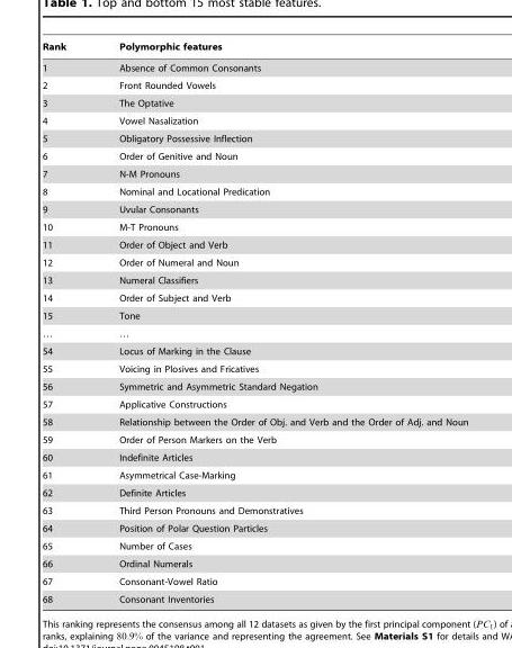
<table><thead><tr><td>Rank</td><td>Polymorphic features</td></tr></thead><tbody><tr><td>1</td><td>Absence of Common Consonants</td></tr><tr><td>2</td><td>Front Rounded Vowels</td></tr><tr><td>3</td><td>The Optative</td></tr><tr><td>4</td><td>Vowel Nasalization</td></tr><tr><td>5</td><td>Obligatory Possessive Inflection</td></tr><tr><td>6</td><td>Order of Genitive and Noun</td></tr><tr><td>7</td><td>N-M Pronouns</td></tr><tr><td>8</td><td>Nominal and Locational Predication</td></tr><tr><td>9</td><td>Uvular Consonants</td></tr><tr><td>10</td><td>M-T Pronouns</td></tr><tr><td>11</td><td>Order of Object and Verb</td></tr><tr><td>12</td><td>Order of Numeral and Noun</td></tr><tr><td>13</td><td>Numeral Classifiers</td></tr><tr><td>14</td><td>Order of Subject and Verb</td></tr><tr><td>15</td><td>Tone</td></tr><tr><td>…</td><td>…</td></tr><tr><td>54</td><td>Locus of Marking in the Clause</td></tr><tr><td>55</td><td>Voicing in Plosives and Fricatives</td></tr><tr><td>56</td><td>Symmetric and Asymmetric Standard Negation</td></tr><tr><td>57</td><td>Applicative Constructions</td></tr><tr><td>58</td><td>Relationship between the Order of Obj. and Verb and the Order of Adj. and Noun</td></tr><tr><td>59</td><td>Order of Person Markers on the Verb</td></tr><tr><td>60</td><td>Indefinite Articles</td></tr><tr><td>61</td><td>Asymmetrical Case-Marking</td></tr><tr><td>62</td><td>Definite Articles</td></tr><tr><td>63</td><td>Third Person Pronouns and Demonstratives</td></tr><tr><td>64</td><td>Position of Polar Question Particles</td></tr><tr><td>65</td><td>Number of Cases</td></tr><tr><td>66</td><td>Ordinal Numerals</td></tr><tr><td>67</td><td>Consonant-Vowel Ratio</td></tr><tr><td>68</td><td>Consonant Inventories</td></tr></tbody></table>